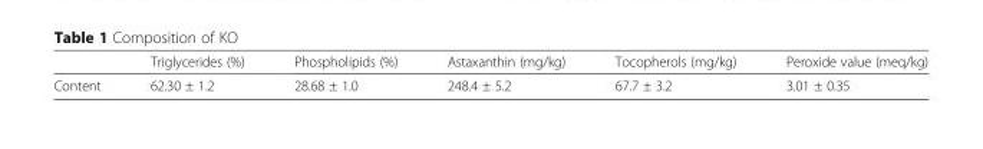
<table><thead><tr><td></td><td>Triglycerides (%)</td><td>Phospholipids (%)</td><td>Astaxanthin (mg/kg)</td><td>Tocopherols (mg/kg)</td><td>Peroxide value (meq/kg)</td></tr></thead><tbody><tr><td>Content</td><td>62.30 ± 1.2</td><td>28.68 ± 1.0</td><td>248.4 ± 5.2</td><td>67.7 ± 3.2</td><td>3.01 ± 0.35</td></tr></tbody></table>